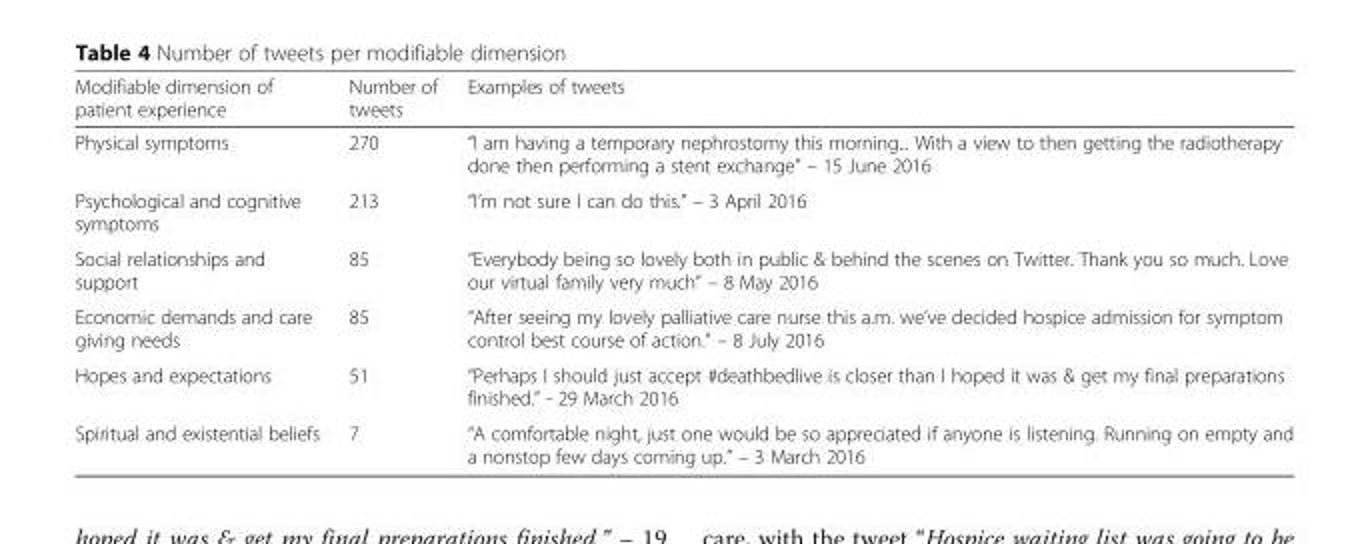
<table><thead><tr><td>Modifiable dimension of patient experience</td><td>Number of tweets</td><td>Examples of tweets</td></tr></thead><tbody><tr><td>Physical symptoms</td><td>270</td><td>“I am having a temporary nephrostomy this morning... With a view to then getting the radiotherapy done then performing a stent exchange” – 15 June 2016</td></tr><tr><td>Psychological and cognitive symptoms</td><td>213</td><td>“I’m not sure I can do this.” – 3 April 2016</td></tr><tr><td>Social relationships and support</td><td>85</td><td>“Everybody being so lovely both in public &amp; behind the scenes on Twitter. Thank you so much. Love our virtual family very much” – 8 May 2016</td></tr><tr><td>Economic demands and care giving needs</td><td>85</td><td>“After seeing my lovely palliative care nurse this a.m. we’ve decided hospice admission for symptom control best course of action.” – 8 July 2016</td></tr><tr><td>Hopes and expectations</td><td>51</td><td>“Perhaps I should just accept #deathbedlive is closer than I hoped it was &amp; get my final preparations finished.” - 29 March 2016</td></tr><tr><td>Spiritual and existential beliefs</td><td>7</td><td>“A comfortable night, just one would be so appreciated if anyone is listening. Running on empty and a nonstop few days coming up.” – 3 March 2016</td></tr></tbody></table>